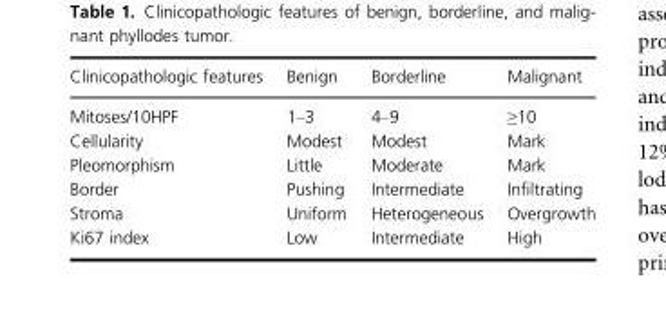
<table><thead><tr><td>Clinicopathologic features</td><td>Benign</td><td>Borderline</td><td>Malignant</td></tr></thead><tbody><tr><td>Mitoses/10HPF</td><td>1–3</td><td>4–9</td><td>≥10</td></tr><tr><td>Cellularity</td><td>Modest</td><td>Modest</td><td>Mark</td></tr><tr><td>Pleomorphism</td><td>Little</td><td>Moderate</td><td>Mark</td></tr><tr><td>Border</td><td>Pushing</td><td>Intermediate</td><td>Infiltrating</td></tr><tr><td>Stroma</td><td>Uniform</td><td>Heterogeneous</td><td>Overgrowth</td></tr><tr><td>Ki67 index</td><td>Low</td><td>Intermediate</td><td>High</td></tr></tbody></table>